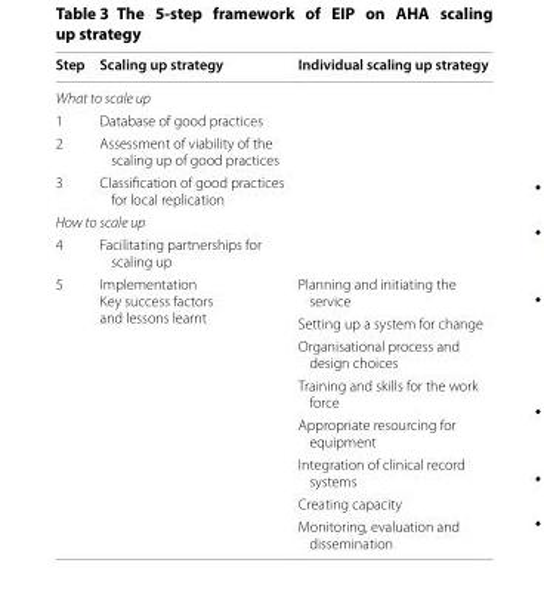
<table><thead><tr><td>Step</td><td>Scaling up strategy</td><td>Individual scaling up strategy</td></tr></thead><tbody><tr><td colspan="3">What to scale up</td></tr><tr><td>1</td><td>Database of good practices</td><td></td></tr><tr><td>2</td><td>Assessment of viability of the scaling up of good practices</td><td></td></tr><tr><td>3</td><td>Classification of good practices for local replication</td><td></td></tr><tr><td colspan="3">How to scale up</td></tr><tr><td>4</td><td>Facilitating partnerships for scaling up</td><td></td></tr><tr><td rowspan="8">5</td><td rowspan="8">Implementation Key success factors and lessons learnt</td><td>Planning and initiating the service</td></tr><tr><td>Setting up a system for change</td></tr><tr><td>Organisational process and design choices</td></tr><tr><td>Training and skills for the work force</td></tr><tr><td>Appropriate resourcing for equipment</td></tr><tr><td>Integration of clinical record systems</td></tr><tr><td>Creating capacity</td></tr><tr><td>Monitoring, evaluation and dissemination</td></tr></tbody></table>